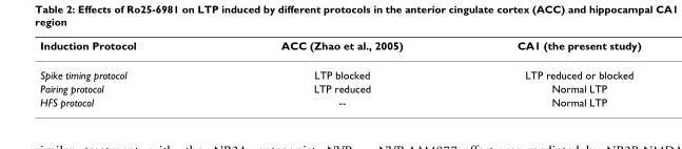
<table><thead><tr><td>Induction Protocol</td><td>ACC (Zhao et al., 2005)</td><td>CA1 (the present study)</td></tr></thead><tbody><tr><td>Spike timing protocol</td><td>LTP blocked</td><td>LTP reduced or blocked</td></tr><tr><td>Pairing protocol</td><td>LTP reduced</td><td>Normal LTP</td></tr><tr><td>HFS protocol</td><td>--</td><td>Normal LTP</td></tr></tbody></table>